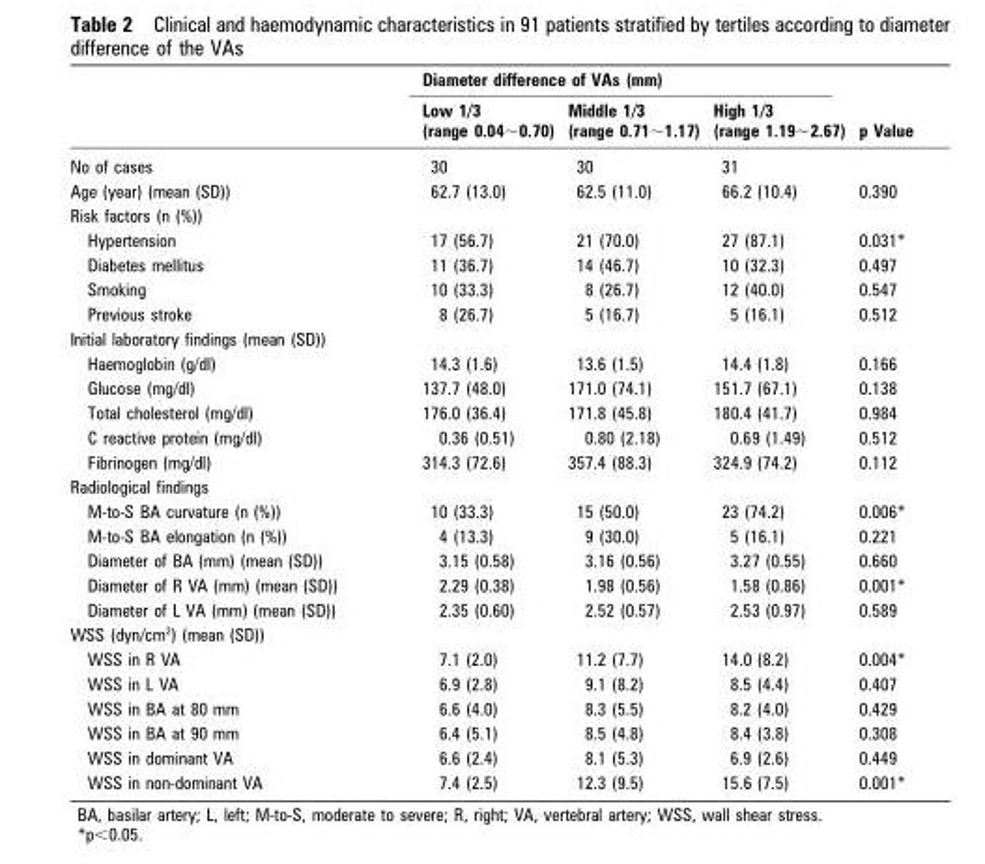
<table><thead><tr><td rowspan="2"></td><td colspan="3">Diameter difference of VAs (mm)</td><td rowspan="2">p Value</td></tr><tr><td>Low 1/3 (range 0.04∼0.70)</td><td>Middle 1/3 (range 0.71∼1.17)</td><td>High 1/3 (range 1.19∼2.67)</td></tr></thead><tbody><tr><td>No of cases</td><td>30</td><td>30</td><td>31</td><td></td></tr><tr><td>Age (year) (mean (SD))</td><td>62.7 (13.0)</td><td>62.5 (11.0)</td><td>66.2 (10.4)</td><td>0.390</td></tr><tr><td colspan="5">Risk factors (n (%))</td></tr><tr><td>Hypertension</td><td>17 (56.7)</td><td>21 (70.0)</td><td>27 (87.1)</td><td>0.031*</td></tr><tr><td>Diabetes mellitus</td><td>11 (36.7)</td><td>14 (46.7)</td><td>10 (32.3)</td><td>0.497</td></tr><tr><td>Smoking</td><td>10 (33.3)</td><td>8 (26.7)</td><td>12 (40.0)</td><td>0.547</td></tr><tr><td>Previous stroke</td><td>8 (26.7)</td><td>5 (16.7)</td><td>5 (16.1)</td><td>0.512</td></tr><tr><td colspan="5">Initial laboratory findings (mean (SD))</td></tr><tr><td>Haemoglobin (g/dl)</td><td>14.3 (1.6)</td><td>13.6 (1.5)</td><td>14.4 (1.8)</td><td>0.166</td></tr><tr><td>Glucose (mg/dl)</td><td>137.7 (48.0)</td><td>171.0 (74.1)</td><td>151.7 (67.1)</td><td>0.138</td></tr><tr><td>Total cholesterol (mg/dl)</td><td>176.0 (36.4)</td><td>171.8 (45.8)</td><td>180.4 (41.7)</td><td>0.984</td></tr><tr><td>C reactive protein (mg/dl)</td><td>0.36 (0.51)</td><td>0.80 (2.18)</td><td>0.69 (1.49)</td><td>0.512</td></tr><tr><td>Fibrinogen (mg/dl)</td><td>314.3 (72.6)</td><td>357.4 (88.3)</td><td>324.9 (74.2)</td><td>0.112</td></tr><tr><td colspan="5">Radiological findings</td></tr><tr><td>M-to-S BA curvature (n (%))</td><td>10 (33.3)</td><td>15 (50.0)</td><td>23 (74.2)</td><td>0.006*</td></tr><tr><td>M-to-S BA elongation (n (%))</td><td>4 (13.3)</td><td>9 (30.0)</td><td>5 (16.1)</td><td>0.221</td></tr><tr><td>Diameter of BA (mm) (mean (SD))</td><td>3.15 (0.58)</td><td>3.16 (0.56)</td><td>3.27 (0.55)</td><td>0.660</td></tr><tr><td>Diameter of R VA (mm) (mean (SD))</td><td>2.29 (0.38)</td><td>1.98 (0.56)</td><td>1.58 (0.86)</td><td>0.001*</td></tr><tr><td>Diameter of L VA (mm) (mean (SD))</td><td>2.35 (0.60)</td><td>2.52 (0.57)</td><td>2.53 (0.97)</td><td>0.589</td></tr><tr><td colspan="5">WSS (dyn/cm<sup>2</sup>) (mean (SD))</td></tr><tr><td>WSS in R VA</td><td>7.1 (2.0)</td><td>11.2 (7.7)</td><td>14.0 (8.2)</td><td>0.004*</td></tr><tr><td>WSS in L VA</td><td>6.9 (2.8)</td><td>9.1 (8.2)</td><td>8.5 (4.4)</td><td>0.407</td></tr><tr><td>WSS in BA at 80 mm</td><td>6.6 (4.0)</td><td>8.3 (5.5)</td><td>8.2 (4.0)</td><td>0.429</td></tr><tr><td>WSS in BA at 90 mm</td><td>6.4 (5.1)</td><td>8.5 (4.8)</td><td>8.4 (3.8)</td><td>0.308</td></tr><tr><td>WSS in dominant VA</td><td>6.6 (2.4)</td><td>8.1 (5.3)</td><td>6.9 (2.6)</td><td>0.449</td></tr><tr><td>WSS in non-dominant VA</td><td>7.4 (2.5)</td><td>12.3 (9.5)</td><td>15.6 (7.5)</td><td>0.001*</td></tr></tbody></table>